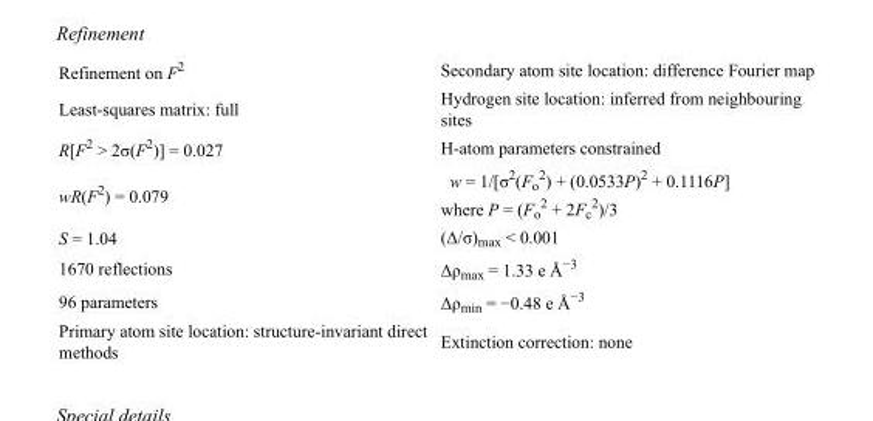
<table><tbody><tr><td>Refinement on F<sup>2</sup></td><td>Secondary atom site location: difference Fourier map</td></tr><tr><td>Least-squares matrix: full</td><td>Hydrogen site location: inferred from neighbouring sites</td></tr><tr><td>R[F<sup>2</sup> &gt; 2σ(F<sup>2</sup>)] = 0.027</td><td>H-atom parameters constrained</td></tr><tr><td>wR(F<sup>2</sup>) = 0.079</td><td>w = 1/[σ<sup>2</sup>(F<sub>o</sub> <sup>2</sup>) + (0.0533P)<sup>2</sup> + 0.1116P] where P = (F<sub>o</sub> <sup>2</sup> + 2F<sub>c</sub> <sup>2</sup>)/3</td></tr><tr><td>S = 1.04</td><td>(Δ/σ)<sub>max</sub> &lt; 0.001</td></tr><tr><td>1670 reflections</td><td>Δρ<sub>max</sub> = 1.33 e Å<sup>−3</sup></td></tr><tr><td>96 parameters</td><td>Δρ<sub>min</sub> = −0.48 e Å<sup>−3</sup></td></tr><tr><td>Primary atom site location: structure-invariant direct methods</td><td>Extinction correction: none</td></tr></tbody></table>